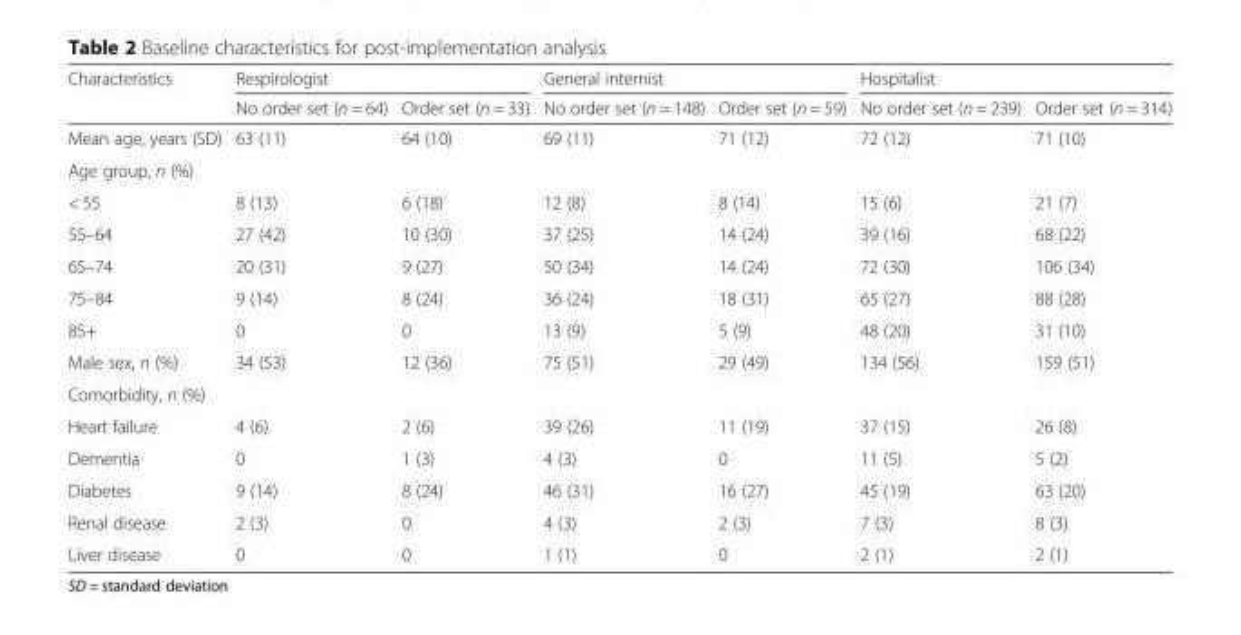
<table><thead><tr><td rowspan="2">Characteristics</td><td colspan="2">Respirologist</td><td colspan="2">General internist</td><td colspan="2">Hospitalist</td></tr><tr><td>No order set (n = 64)</td><td>Order set (n = 33)</td><td>No order set (n = 148)</td><td>Order set (n = 59)</td><td>No order set (n = 239)</td><td>Order set (n = 314)</td></tr></thead><tbody><tr><td>Mean age, years (SD)</td><td>63 (11)</td><td>64 (10)</td><td>69 (11)</td><td>71 (12)</td><td>72 (12)</td><td>71 (10)</td></tr><tr><td colspan="7">Age group, n (%)</td></tr><tr><td>&lt; 55</td><td>8 (13)</td><td>6 (18)</td><td>12 (8)</td><td>8 (14)</td><td>15 (6)</td><td>21 (7)</td></tr><tr><td>55–64</td><td>27 (42)</td><td>10 (30)</td><td>37 (25)</td><td>14 (24)</td><td>39 (16)</td><td>68 (22)</td></tr><tr><td>65–74</td><td>20 (31)</td><td>9 (27)</td><td>50 (34)</td><td>14 (24)</td><td>72 (30)</td><td>106 (34)</td></tr><tr><td>75–84</td><td>9 (14)</td><td>8 (24)</td><td>36 (24)</td><td>18 (31)</td><td>65 (27)</td><td>88 (28)</td></tr><tr><td>85+</td><td>0</td><td>0</td><td>13 (9)</td><td>5 (9)</td><td>48 (20)</td><td>31 (10)</td></tr><tr><td>Male sex, n (%)</td><td>34 (53)</td><td>12 (36)</td><td>75 (51)</td><td>29 (49)</td><td>134 (56)</td><td>159 (51)</td></tr><tr><td colspan="7">Comorbidity, n (%)</td></tr><tr><td>Heart failure</td><td>4 (6)</td><td>2 (6)</td><td>39 (26)</td><td>11 (19)</td><td>37 (15)</td><td>26 (8)</td></tr><tr><td>Dementia</td><td>0</td><td>1 (3)</td><td>4 (3)</td><td>0</td><td>11 (5)</td><td>5 (2)</td></tr><tr><td>Diabetes</td><td>9 (14)</td><td>8 (24)</td><td>46 (31)</td><td>16 (27)</td><td>45 (19)</td><td>63 (20)</td></tr><tr><td>Renal disease</td><td>2 (3)</td><td>0</td><td>4 (3)</td><td>2 (3)</td><td>7 (3)</td><td>8 (3)</td></tr><tr><td>Liver disease</td><td>0</td><td>0</td><td>1 (1)</td><td>0</td><td>2 (1)</td><td>2 (1)</td></tr></tbody></table>